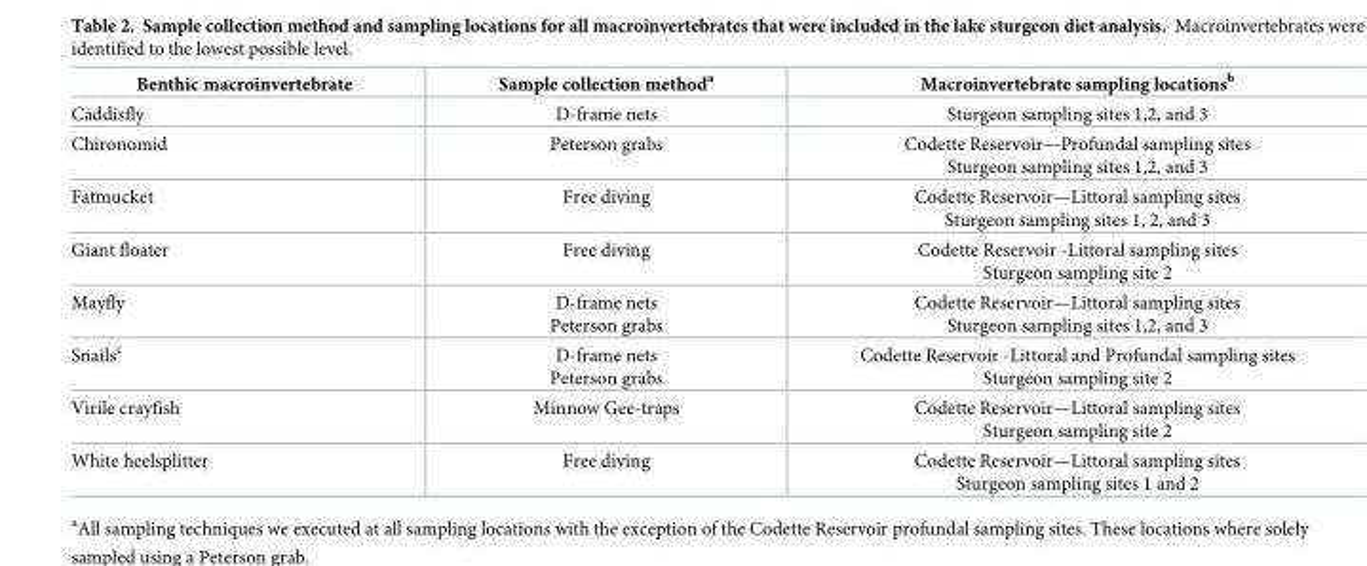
<table><thead><tr><td>Benthic macroinvertebrate</td><td>Sample collection method<sup>a</sup></td><td>Macroinvertebrate sampling locations<sup>b</sup></td></tr></thead><tbody><tr><td>Caddisfly</td><td>D-frame nets</td><td>Sturgeon sampling sites 1,2, and 3</td></tr><tr><td>Chironomid</td><td>Peterson grabs</td><td>Codette Reservoir—Profundal sampling sites Sturgeon sampling sites 1,2, and 3</td></tr><tr><td>Fatmucket</td><td>Free diving</td><td>Codette Reservoir—Littoral sampling sites Sturgeon sampling sites 1, 2, and 3</td></tr><tr><td>Giant floater</td><td>Free diving</td><td>Codette Reservoir -Littoral sampling sites Sturgeon sampling site 2</td></tr><tr><td>Mayfly</td><td>D-frame nets Peterson grabs</td><td>Codette Reservoir—Littoral sampling sites Sturgeon sampling sites 1,2, and 3</td></tr><tr><td>Snails<sup>c</sup></td><td>D-frame nets Peterson grabs</td><td>Codette Reservoir -Littoral and Profundal sampling sites Sturgeon sampling site 2</td></tr><tr><td>Virile crayfish</td><td>Minnow Gee-traps</td><td>Codette Reservoir—Littoral sampling sites Sturgeon sampling site 2</td></tr><tr><td>White heelsplitter</td><td>Free diving</td><td>Codette Reservoir—Littoral sampling sites Sturgeon sampling sites 1 and 2</td></tr></tbody></table>